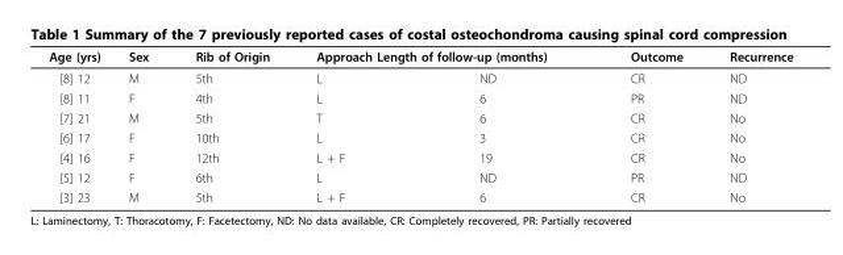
<table><thead><tr><td rowspan="2">Age (yrs) [8] 12</td><td rowspan="2">Sex M</td><td rowspan="2">Rib of Origin 5th</td><td colspan="2">Approach Length of follow-up (months)</td><td rowspan="2">Outcome CR</td><td rowspan="2">Recurrence ND</td></tr><tr><td>L</td><td>ND</td></tr></thead><tbody><tr><td>[8] 11</td><td>F</td><td>4th</td><td>L</td><td>6</td><td>PR</td><td>ND</td></tr><tr><td>[7] 21</td><td>M</td><td>5th</td><td>T</td><td>6</td><td>CR</td><td>No</td></tr><tr><td>[6] 17</td><td>F</td><td>10th</td><td>L</td><td>3</td><td>CR</td><td>No</td></tr><tr><td>[4] 16</td><td>F</td><td>12th</td><td>L + F</td><td>19</td><td>CR</td><td>No</td></tr><tr><td>[5] 12</td><td>F</td><td>6th</td><td>L</td><td>ND</td><td>PR</td><td>ND</td></tr><tr><td>[3] 23</td><td>M</td><td>5th</td><td>L + F</td><td>6</td><td>CR</td><td>No</td></tr></tbody></table>